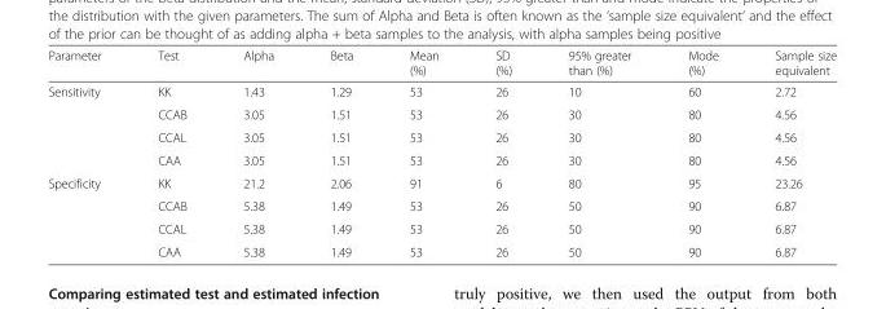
<table><thead><tr><td>Parameter</td><td>Test</td><td>Alpha</td><td>Beta</td><td>Mean (%)</td><td>SD (%)</td><td>95% greater than (%)</td><td>Mode (%)</td><td>Sample size equivalent</td></tr></thead><tbody><tr><td rowspan="4">Sensitivity</td><td>KK</td><td>1.43</td><td>1.29</td><td>53</td><td>26</td><td>10</td><td>60</td><td>2.72</td></tr><tr><td>CCAB</td><td>3.05</td><td>1.51</td><td>53</td><td>26</td><td>30</td><td>80</td><td>4.56</td></tr><tr><td>CCAL</td><td>3.05</td><td>1.51</td><td>53</td><td>26</td><td>30</td><td>80</td><td>4.56</td></tr><tr><td>CAA</td><td>3.05</td><td>1.51</td><td>53</td><td>26</td><td>30</td><td>80</td><td>4.56</td></tr><tr><td rowspan="4">Specificity</td><td>KK</td><td>21.2</td><td>2.06</td><td>91</td><td>6</td><td>80</td><td>95</td><td>23.26</td></tr><tr><td>CCAB</td><td>5.38</td><td>1.49</td><td>53</td><td>26</td><td>50</td><td>90</td><td>6.87</td></tr><tr><td>CCAL</td><td>5.38</td><td>1.49</td><td>53</td><td>26</td><td>50</td><td>90</td><td>6.87</td></tr><tr><td>CAA</td><td>5.38</td><td>1.49</td><td>53</td><td>26</td><td>50</td><td>90</td><td>6.87</td></tr></tbody></table>